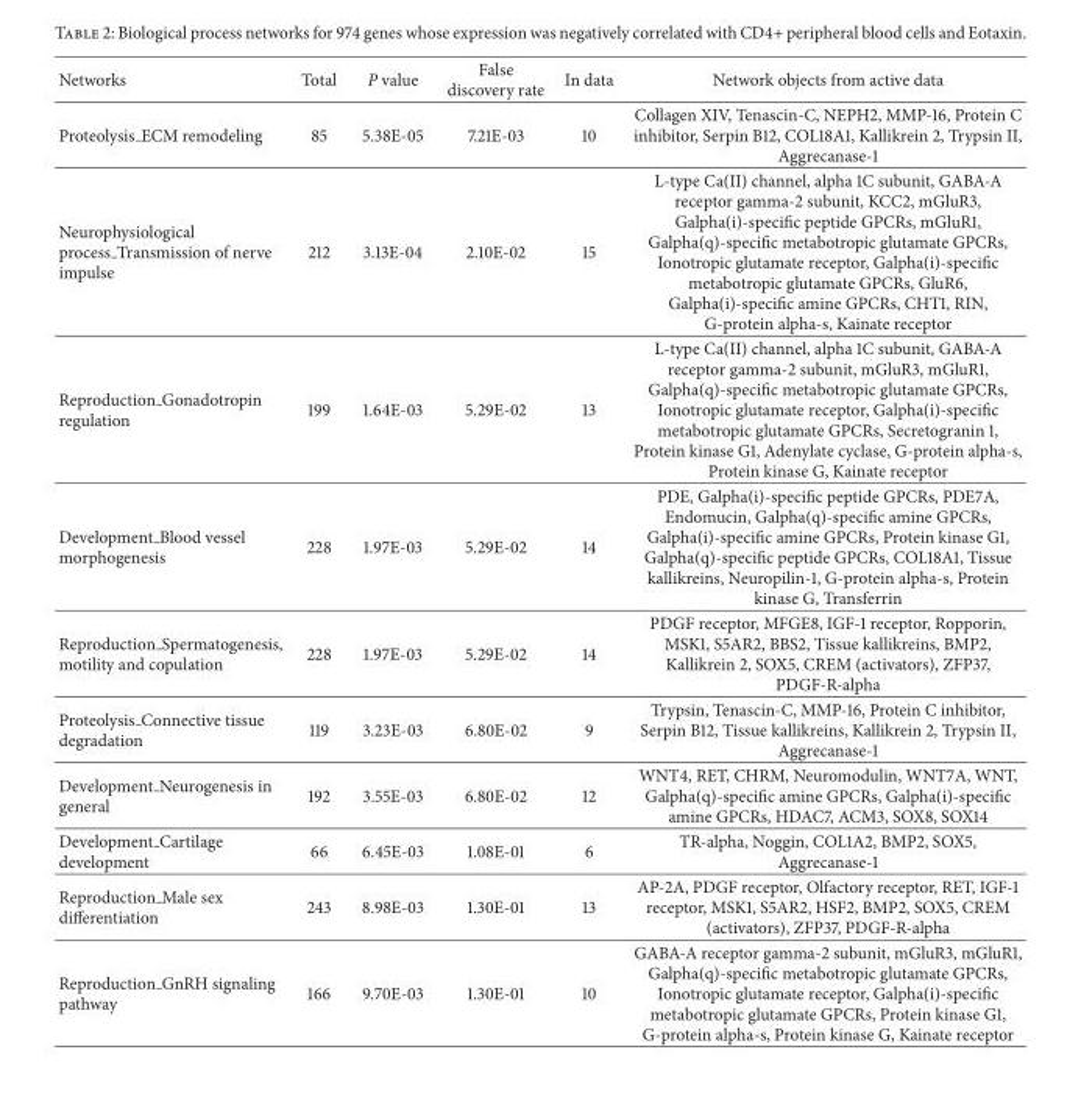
<table><thead><tr><td>Networks</td><td>Total</td><td>P value</td><td>False discovery rate</td><td>In data</td><td>Network objects from active data</td></tr></thead><tbody><tr><td>Proteolysis ECM remodeling</td><td>85</td><td>5.38E-05</td><td>7.21E-03</td><td>10</td><td>Collagen XIV, Tenascin-C, NEPH2, MMP-16, Protein C inhibitor, Serpin B12, COL18A1, Kallikrein 2, Trypsin II, Aggrecanase-1</td></tr><tr><td>Neurophysiological process Transmission of nerve impulse</td><td>212</td><td>3.13E-04</td><td>2.10E-02</td><td>15</td><td>L-type Ca(II) channel, alpha 1C subunit, GABA-A receptor gamma-2 subunit, KCC2, mGluR3, Galpha(i)-specific peptide GPCRs, mGluR1, Galpha(q)-specific metabotropic glutamate GPCRs, Ionotropic glutamate receptor, Galpha(i)-specific metabotropic glutamate GPCRs, GluR6, Galpha(i)-specific amine GPCRs, CHT1, RIN, G-protein alpha-s, Kainate receptor</td></tr><tr><td>Reproduction Gonadotropin regulation</td><td>199</td><td>1.64E-03</td><td>5.29E-02</td><td>13</td><td>L-type Ca(II) channel, alpha 1C subunit, GABA-A receptor gamma-2 subunit, mGluR3, mGluR1, Galpha(q)-specific metabotropic glutamate GPCRs, Ionotropic glutamate receptor, Galpha(i)-specific metabotropic glutamate GPCRs, Secretogranin 1, Protein kinase G1, Adenylate cyclase, G-protein alpha-s, Protein kinase G, Kainate receptor</td></tr><tr><td>Development Blood vessel morphogenesis</td><td>228</td><td>1.97E-03</td><td>5.29E-02</td><td>14</td><td>PDE, Galpha(i)-specific peptide GPCRs, PDE7A, Endomucin, Galpha(q)-specific amine GPCRs, Galpha(i)-specific amine GPCRs, Protein kinase G1, Galpha(q)-specific peptide GPCRs, COL18A1, Tissue kallikreins, Neuropilin-1, G-protein alpha-s, Protein kinase G, Transferrin</td></tr><tr><td>Reproduction Spermatogenesis, motility and copulation</td><td>228</td><td>1.97E-03</td><td>5.29E-02</td><td>14</td><td>PDGF receptor, MFGE8, IGF-1 receptor, Ropporin, MSK1, S5AR2, BBS2, Tissue kallikreins, BMP2, Kallikrein 2, SOX5, CREM (activators), ZFP37, PDGF-R-alpha</td></tr><tr><td>Proteolysis Connective tissue degradation</td><td>119</td><td>3.23E-03</td><td>6.80E-02</td><td>9</td><td>Trypsin, Tenascin-C, MMP-16, Protein C inhibitor, Serpin B12, Tissue kallikreins, Kallikrein 2, Trypsin II, Aggrecanase-1</td></tr><tr><td>Development Neurogenesis in general</td><td>192</td><td>3.55E-03</td><td>6.80E-02</td><td>12</td><td>WNT4, RET, CHRM, Neuromodulin, WNT7A, WNT, Galpha(q)-specific amine GPCRs, Galpha(i)-specific amine GPCRs, HDAC7, ACM3, SOX8, SOX14</td></tr><tr><td>Development Cartilage development</td><td>66</td><td>6.45E-03</td><td>1.08E-01</td><td>6</td><td>TR-alpha, Noggin, COL1A2, BMP2, SOX5, Aggrecanase-1</td></tr><tr><td>Reproduction Male sex differentiation</td><td>243</td><td>8.98E-03</td><td>1.30E-01</td><td>13</td><td>AP-2A, PDGF receptor, Olfactory receptor, RET, IGF-1 receptor, MSK1, S5AR2, HSF2, BMP2, SOX5, CREM (activators), ZFP37, PDGF-R-alpha</td></tr><tr><td>Reproduction GnRH signaling pathway</td><td>166</td><td>9.70E-03</td><td>1.30E-01</td><td>10</td><td>GABA-A receptor gamma-2 subunit, mGluR3, mGluR1, Galpha(q)-specific metabotropic glutamate GPCRs, Ionotropic glutamate receptor, Galpha(i)-specific metabotropic glutamate GPCRs, Protein kinase G1, G-protein alpha-s, Protein kinase G, Kainate receptor</td></tr></tbody></table>